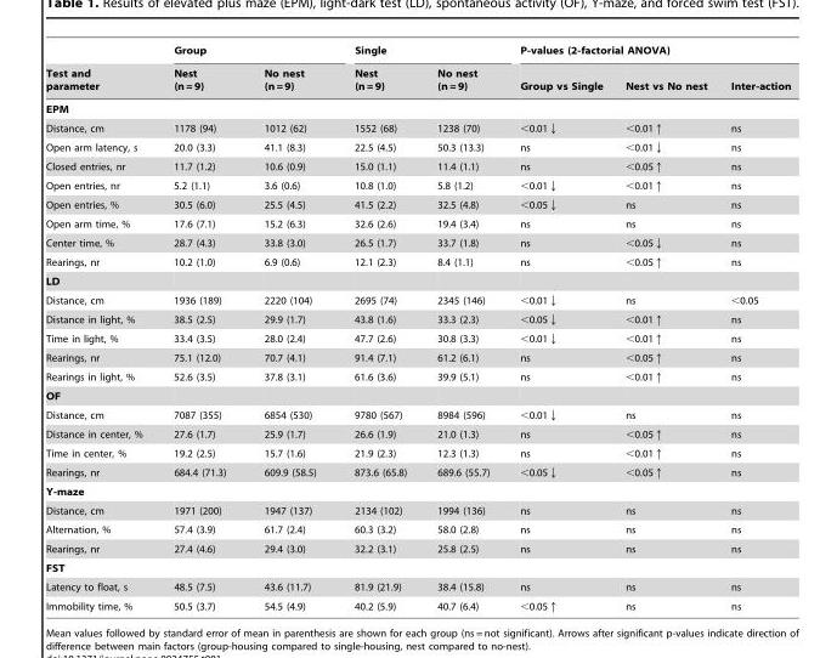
<table><thead><tr><td rowspan="2">Test and parameter</td><td colspan="2">Group</td><td colspan="2">Single</td><td colspan="3">P-values (2-factorial ANOVA)</td></tr><tr><td>Nest (n = 9)</td><td>No nest (n = 9)</td><td>Nest (n = 9)</td><td>No nest (n = 9)</td><td>Group vs Single</td><td>Nest vs No nest</td><td>Inter-action</td></tr></thead><tbody><tr><td colspan="8">EPM</td></tr><tr><td>Distance, cm</td><td>1178 (94)</td><td>1012 (62)</td><td>1552 (68)</td><td>1238 (70)</td><td>&lt;0.01↓</td><td>&lt;0.01↑</td><td>ns</td></tr><tr><td>Open arm latency, s</td><td>20.0 (3.3)</td><td>41.1 (8.3)</td><td>22.5 (4.5)</td><td>50.3 (13.3)</td><td>ns</td><td>&lt;0.01↓</td><td>ns</td></tr><tr><td>Closed entries, nr</td><td>11.7 (1.2)</td><td>10.6 (0.9)</td><td>15.0 (1.1)</td><td>11.4 (1.1)</td><td>ns</td><td>&lt;0.05↑</td><td>ns</td></tr><tr><td>Open entries, nr</td><td>5.2 (1.1)</td><td>3.6 (0.6)</td><td>10.8 (1.0)</td><td>5.8 (1.2)</td><td>&lt;0.01↓</td><td>&lt;0.01↑</td><td>ns</td></tr><tr><td>Open entries, %</td><td>30.5 (6.0)</td><td>25.5 (4.5)</td><td>41.5 (2.2)</td><td>32.5 (4.8)</td><td>&lt;0.05↓</td><td>ns</td><td>ns</td></tr><tr><td>Open arm time, %</td><td>17.6 (7.1)</td><td>15.2 (6.3)</td><td>32.6 (2.6)</td><td>19.4 (3.4)</td><td>ns</td><td>ns</td><td>ns</td></tr><tr><td>Center time, %</td><td>28.7 (4.3)</td><td>33.8 (3.0)</td><td>26.5 (1.7)</td><td>33.7 (1.8)</td><td>ns</td><td>&lt;0.05↓</td><td>ns</td></tr><tr><td>Rearings, nr</td><td>10.2 (1.0)</td><td>6.9 (0.6)</td><td>12.1 (2.3)</td><td>8.4 (1.1)</td><td>ns</td><td>&lt;0.05↑</td><td>ns</td></tr><tr><td colspan="8">LD</td></tr><tr><td>Distance, cm</td><td>1936 (189)</td><td>2220 (104)</td><td>2695 (74)</td><td>2345 (146)</td><td>&lt;0.01↓</td><td>ns</td><td>&lt;0.05</td></tr><tr><td>Distance in light, %</td><td>38.5 (2.5)</td><td>29.9 (1.7)</td><td>43.8 (1.6)</td><td>33.3 (2.3)</td><td>&lt;0.05↓</td><td>&lt;0.01↑</td><td>ns</td></tr><tr><td>Time in light, %</td><td>33.4 (3.5)</td><td>28.0 (2.4)</td><td>47.7 (2.6)</td><td>30.8 (3.3)</td><td>&lt;0.01↓</td><td>&lt;0.01↑</td><td>ns</td></tr><tr><td>Rearings, nr</td><td>75.1 (12.0)</td><td>70.7 (4.1)</td><td>91.4 (7.1)</td><td>61.2 (6.1)</td><td>ns</td><td>&lt;0.05↑</td><td>ns</td></tr><tr><td>Rearings in light, %</td><td>52.6 (3.5)</td><td>37.8 (3.1)</td><td>61.6 (3.6)</td><td>39.9 (5.1)</td><td>ns</td><td>&lt;0.01↑</td><td>ns</td></tr><tr><td colspan="8">OF</td></tr><tr><td>Distance, cm</td><td>7087 (355)</td><td>6854 (530)</td><td>9780 (567)</td><td>8984 (596)</td><td>&lt;0.01↓</td><td>ns</td><td>ns</td></tr><tr><td>Distance in center, %</td><td>27.6 (1.7)</td><td>25.9 (1.7)</td><td>26.6 (1.9)</td><td>21.0 (1.3)</td><td>ns</td><td>&lt;0.05↑</td><td>ns</td></tr><tr><td>Time in center, %</td><td>19.2 (2.5)</td><td>15.7 (1.6)</td><td>21.9 (2.3)</td><td>12.3 (1.3)</td><td>ns</td><td>&lt;0.01↑</td><td>ns</td></tr><tr><td>Rearings, nr</td><td>684.4 (71.3)</td><td>609.9 (58.5)</td><td>873.6 (65.8)</td><td>689.6 (55.7)</td><td>&lt;0.05↓</td><td>&lt;0.05↑</td><td>ns</td></tr><tr><td colspan="8">Y-maze</td></tr><tr><td>Distance, cm</td><td>1971 (200)</td><td>1947 (137)</td><td>2134 (102)</td><td>1994 (136)</td><td>ns</td><td>ns</td><td>ns</td></tr><tr><td>Alternation, %</td><td>57.4 (3.9)</td><td>61.7 (2.4)</td><td>60.3 (3.2)</td><td>58.0 (2.8)</td><td>ns</td><td>ns</td><td>ns</td></tr><tr><td>Rearings, nr</td><td>27.4 (4.6)</td><td>29.4 (3.0)</td><td>32.2 (3.1)</td><td>25.8 (2.5)</td><td>ns</td><td>ns</td><td>ns</td></tr><tr><td colspan="8">FST</td></tr><tr><td>Latency to float, s</td><td>48.5 (7.5)</td><td>43.6 (11.7)</td><td>81.9 (21.9)</td><td>38.4 (15.8)</td><td>ns</td><td>ns</td><td>ns</td></tr><tr><td>Immobility time, %</td><td>50.5 (3.7)</td><td>54.5 (4.9)</td><td>40.2 (5.9)</td><td>40.7 (6.4)</td><td>&lt;0.05↑</td><td>ns</td><td>ns</td></tr></tbody></table>